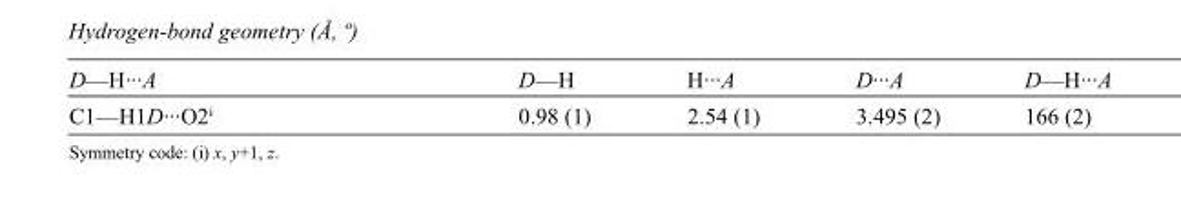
<table><tbody><tr><td>D—H···A</td><td>D—H</td><td>H···A</td><td>D···A</td><td>D—H···A</td></tr><tr><td>C1—H1D···O2<sup>i</sup></td><td>0.98 (1)</td><td>2.54 (1)</td><td>3.495 (2)</td><td>166 (2)</td></tr></tbody></table>